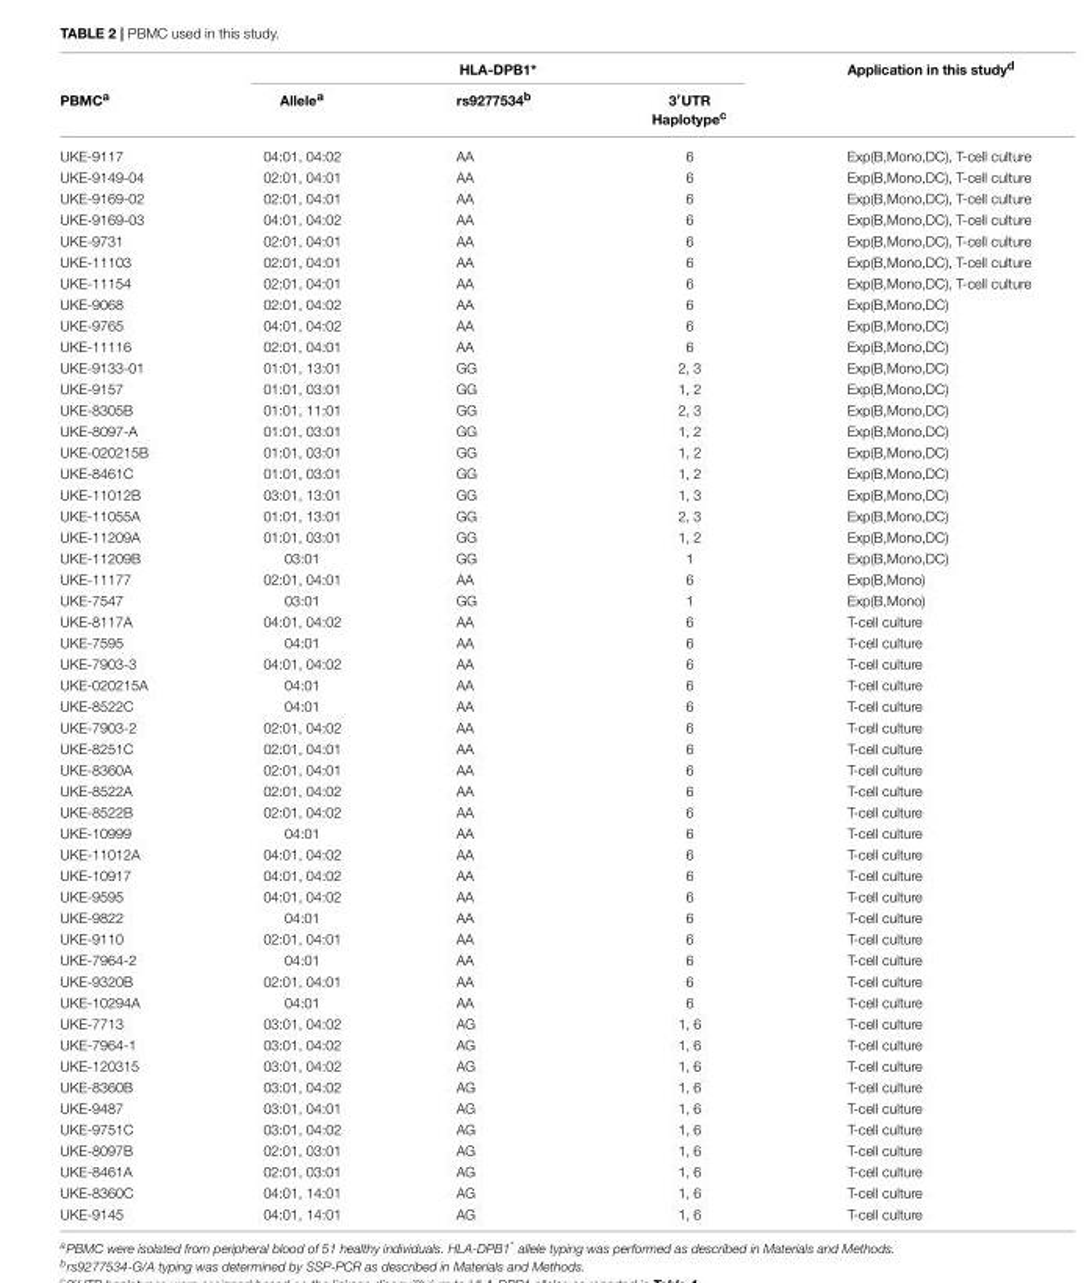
<table><thead><tr><td rowspan="2">PBMC<sup>a</sup></td><td colspan="3">HLA-DPB1*</td><td rowspan="2">Application in this study<sup>d</sup></td></tr><tr><td>Allele<sup>a</sup></td><td>rs9277534<sup>b</sup></td><td>3′UTR Haplotype<sup>c</sup></td></tr></thead><tbody><tr><td>UKE-9117</td><td>04:01, 04:02</td><td>AA</td><td>6</td><td>Exp(B,Mono,DC), T-cell culture</td></tr><tr><td>UKE-9149-04</td><td>02:01, 04:01</td><td>AA</td><td>6</td><td>Exp(B,Mono,DC), T-cell culture</td></tr><tr><td>UKE-9169-02</td><td>02:01, 04:01</td><td>AA</td><td>6</td><td>Exp(B,Mono,DC), T-cell culture</td></tr><tr><td>UKE-9169-03</td><td>04:01, 04:02</td><td>AA</td><td>6</td><td>Exp(B,Mono,DC), T-cell culture</td></tr><tr><td>UKE-9731</td><td>02:01, 04:01</td><td>AA</td><td>6</td><td>Exp(B,Mono,DC), T-cell culture</td></tr><tr><td>UKE-11103</td><td>02:01, 04:01</td><td>AA</td><td>6</td><td>Exp(B,Mono,DC), T-cell culture</td></tr><tr><td>UKE-11154</td><td>02:01, 04:01</td><td>AA</td><td>6</td><td>Exp(B,Mono,DC), T-cell culture</td></tr><tr><td>UKE-9068</td><td>02:01, 04:02</td><td>AA</td><td>6</td><td>Exp(B,Mono,DC)</td></tr><tr><td>UKE-9765</td><td>04:01, 04:02</td><td>AA</td><td>6</td><td>Exp(B,Mono,DC)</td></tr><tr><td>UKE-11116</td><td>02:01, 04:01</td><td>AA</td><td>6</td><td>Exp(B,Mono,DC)</td></tr><tr><td>UKE-9133-01</td><td>01:01, 13:01</td><td>GG</td><td>2, 3</td><td>Exp(B,Mono,DC)</td></tr><tr><td>UKE-9157</td><td>01:01, 03:01</td><td>GG</td><td>1, 2</td><td>Exp(B,Mono,DC)</td></tr><tr><td>UKE-8305B</td><td>01:01, 11:01</td><td>GG</td><td>2, 3</td><td>Exp(B,Mono,DC)</td></tr><tr><td>UKE-8097-A</td><td>01:01, 03:01</td><td>GG</td><td>1, 2</td><td>Exp(B,Mono,DC)</td></tr><tr><td>UKE-020215B</td><td>01:01, 03:01</td><td>GG</td><td>1, 2</td><td>Exp(B,Mono,DC)</td></tr><tr><td>UKE-8461C</td><td>01:01, 03:01</td><td>GG</td><td>1, 2</td><td>Exp(B,Mono,DC)</td></tr><tr><td>UKE-11012B</td><td>03:01, 13:01</td><td>GG</td><td>1, 3</td><td>Exp(B,Mono,DC)</td></tr><tr><td>UKE-11055A</td><td>01:01, 13:01</td><td>GG</td><td>2, 3</td><td>Exp(B,Mono,DC)</td></tr><tr><td>UKE-11209A</td><td>01:01, 03:01</td><td>GG</td><td>1, 2</td><td>Exp(B,Mono,DC)</td></tr><tr><td>UKE-11209B</td><td>03:01</td><td>GG</td><td>1</td><td>Exp(B,Mono,DC)</td></tr><tr><td>UKE-11177</td><td>02:01, 04:01</td><td>AA</td><td>6</td><td>Exp(B,Mono)</td></tr><tr><td>UKE-7547</td><td>03:01</td><td>GG</td><td>1</td><td>Exp(B,Mono)</td></tr><tr><td>UKE-8117A</td><td>04:01, 04:02</td><td>AA</td><td>6</td><td>T-cell culture</td></tr><tr><td>UKE-7595</td><td>04:01</td><td>AA</td><td>6</td><td>T-cell culture</td></tr><tr><td>UKE-7903-3</td><td>04:01, 04:02</td><td>AA</td><td>6</td><td>T-cell culture</td></tr><tr><td>UKE-020215A</td><td>04:01</td><td>AA</td><td>6</td><td>T-cell culture</td></tr><tr><td>UKE-8522C</td><td>04:01</td><td>AA</td><td>6</td><td>T-cell culture</td></tr><tr><td>UKE-7903-2</td><td>02:01, 04:02</td><td>AA</td><td>6</td><td>T-cell culture</td></tr><tr><td>UKE-8251C</td><td>02:01, 04:01</td><td>AA</td><td>6</td><td>T-cell culture</td></tr><tr><td>UKE-8360A</td><td>02:01, 04:01</td><td>AA</td><td>6</td><td>T-cell culture</td></tr><tr><td>UKE-8522A</td><td>02:01, 04:02</td><td>AA</td><td>6</td><td>T-cell culture</td></tr><tr><td>UKE-8522B</td><td>02:01, 04:02</td><td>AA</td><td>6</td><td>T-cell culture</td></tr><tr><td>UKE-10999</td><td>04:01</td><td>AA</td><td>6</td><td>T-cell culture</td></tr><tr><td>UKE-11012A</td><td>04:01, 04:02</td><td>AA</td><td>6</td><td>T-cell culture</td></tr><tr><td>UKE-10917</td><td>04:01, 04:02</td><td>AA</td><td>6</td><td>T-cell culture</td></tr><tr><td>UKE-9595</td><td>04:01, 04:02</td><td>AA</td><td>6</td><td>T-cell culture</td></tr><tr><td>UKE-9822</td><td>04:01</td><td>AA</td><td>6</td><td>T-cell culture</td></tr><tr><td>UKE-9110</td><td>02:01, 04:01</td><td>AA</td><td>6</td><td>T-cell culture</td></tr><tr><td>UKE-7964-2</td><td>04:01</td><td>AA</td><td>6</td><td>T-cell culture</td></tr><tr><td>UKE-9320B</td><td>02:01, 04:01</td><td>AA</td><td>6</td><td>T-cell culture</td></tr><tr><td>UKE-10294A</td><td>04:01</td><td>AA</td><td>6</td><td>T-cell culture</td></tr><tr><td>UKE-7713</td><td>03:01, 04:02</td><td>AG</td><td>1, 6</td><td>T-cell culture</td></tr><tr><td>UKE-7964-1</td><td>03:01, 04:02</td><td>AG</td><td>1, 6</td><td>T-cell culture</td></tr><tr><td>UKE-120315</td><td>03:01, 04:02</td><td>AG</td><td>1, 6</td><td>T-cell culture</td></tr><tr><td>UKE-8360B</td><td>03:01, 04:02</td><td>AG</td><td>1, 6</td><td>T-cell culture</td></tr><tr><td>UKE-9487</td><td>03:01, 04:01</td><td>AG</td><td>1, 6</td><td>T-cell culture</td></tr><tr><td>UKE-9751C</td><td>03:01, 04:02</td><td>AG</td><td>1, 6</td><td>T-cell culture</td></tr><tr><td>UKE-8097B</td><td>02:01, 03:01</td><td>AG</td><td>1, 6</td><td>T-cell culture</td></tr><tr><td>UKE-8461A</td><td>02:01, 03:01</td><td>AG</td><td>1, 6</td><td>T-cell culture</td></tr><tr><td>UKE-8360C</td><td>04:01, 14:01</td><td>AG</td><td>1, 6</td><td>T-cell culture</td></tr><tr><td>UKE-9145</td><td>04:01, 14:01</td><td>AG</td><td>1, 6</td><td>T-cell culture</td></tr></tbody></table>